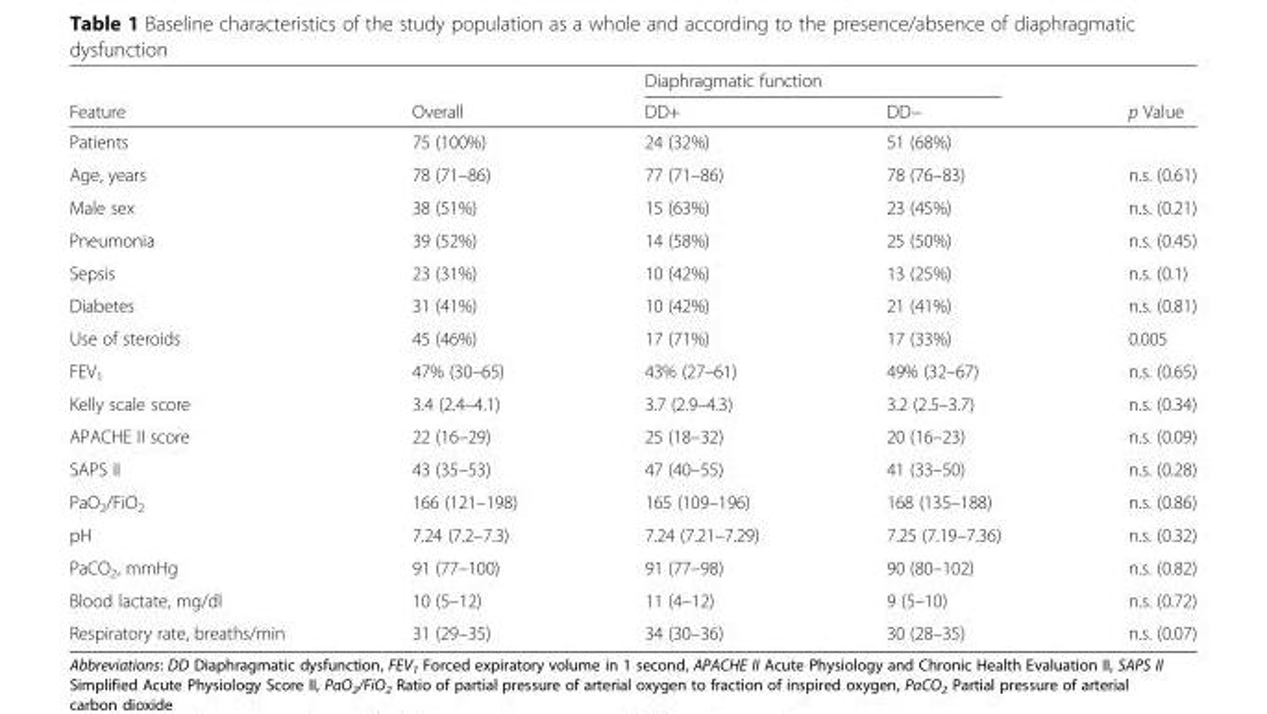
<table><thead><tr><td rowspan="2">Feature</td><td rowspan="2">Overall</td><td colspan="2">Diaphragmatic function</td><td rowspan="2">p Value</td></tr><tr><td>DD+</td><td>DD−</td></tr></thead><tbody><tr><td>Patients</td><td>75 (100%)</td><td>24 (32%)</td><td>51 (68%)</td><td></td></tr><tr><td>Age, years</td><td>78 (71–86)</td><td>77 (71–86)</td><td>78 (76–83)</td><td>n.s. (0.61)</td></tr><tr><td>Male sex</td><td>38 (51%)</td><td>15 (63%)</td><td>23 (45%)</td><td>n.s. (0.21)</td></tr><tr><td>Pneumonia</td><td>39 (52%)</td><td>14 (58%)</td><td>25 (50%)</td><td>n.s. (0.45)</td></tr><tr><td>Sepsis</td><td>23 (31%)</td><td>10 (42%)</td><td>13 (25%)</td><td>n.s. (0.1)</td></tr><tr><td>Diabetes</td><td>31 (41%)</td><td>10 (42%)</td><td>21 (41%)</td><td>n.s. (0.81)</td></tr><tr><td>Use of steroids</td><td>45 (46%)</td><td>17 (71%)</td><td>17 (33%)</td><td>0.005</td></tr><tr><td>FEV<sub>1</sub></td><td>47% (30–65)</td><td>43% (27–61)</td><td>49% (32–67)</td><td>n.s. (0.65)</td></tr><tr><td>Kelly scale score</td><td>3.4 (2.4–4.1)</td><td>3.7 (2.9–4.3)</td><td>3.2 (2.5–3.7)</td><td>n.s. (0.34)</td></tr><tr><td>APACHE II score</td><td>22 (16–29)</td><td>25 (18–32)</td><td>20 (16–23)</td><td>n.s. (0.09)</td></tr><tr><td>SAPS II</td><td>43 (35–53)</td><td>47 (40–55)</td><td>41 (33–50)</td><td>n.s. (0.28)</td></tr><tr><td>PaO<sub>2</sub>/FiO<sub>2</sub></td><td>166 (121–198)</td><td>165 (109–196)</td><td>168 (135–188)</td><td>n.s. (0.86)</td></tr><tr><td>pH</td><td>7.24 (7.2–7.3)</td><td>7.24 (7.21–7.29)</td><td>7.25 (7.19–7.36)</td><td>n.s. (0.32)</td></tr><tr><td>PaCO<sub>2</sub>, mmHg</td><td>91 (77–100)</td><td>91 (77–98)</td><td>90 (80–102)</td><td>n.s. (0.82)</td></tr><tr><td>Blood lactate, mg/dl</td><td>10 (5–12)</td><td>11 (4–12)</td><td>9 (5–10)</td><td>n.s. (0.72)</td></tr><tr><td>Respiratory rate, breaths/min</td><td>31 (29–35)</td><td>34 (30–36)</td><td>30 (28–35)</td><td>n.s. (0.07)</td></tr></tbody></table>